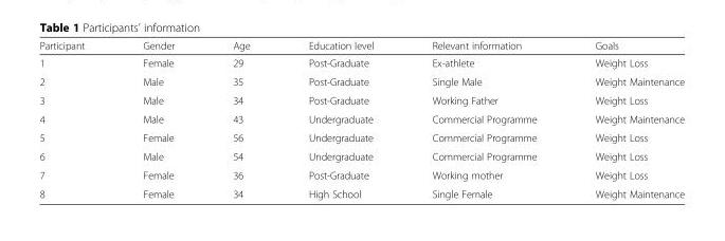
<table><thead><tr><td>Participant</td><td>Gender</td><td>Age</td><td>Education level</td><td>Relevant information</td><td>Goals</td></tr></thead><tbody><tr><td>1</td><td>Female</td><td>29</td><td>Post-Graduate</td><td>Ex-athlete</td><td>Weight Loss</td></tr><tr><td>2</td><td>Male</td><td>35</td><td>Post-Graduate</td><td>Single Male</td><td>Weight Maintenance</td></tr><tr><td>3</td><td>Male</td><td>34</td><td>Post-Graduate</td><td>Working Father</td><td>Weight Loss</td></tr><tr><td>4</td><td>Male</td><td>43</td><td>Undergraduate</td><td>Commercial Programme</td><td>Weight Maintenance</td></tr><tr><td>5</td><td>Female</td><td>56</td><td>Undergraduate</td><td>Commercial Programme</td><td>Weight Loss</td></tr><tr><td>6</td><td>Male</td><td>54</td><td>Undergraduate</td><td>Commercial Programme</td><td>Weight Loss</td></tr><tr><td>7</td><td>Female</td><td>36</td><td>Post-Graduate</td><td>Working mother</td><td>Weight Loss</td></tr><tr><td>8</td><td>Female</td><td>34</td><td>High School</td><td>Single Female</td><td>Weight Maintenance</td></tr></tbody></table>